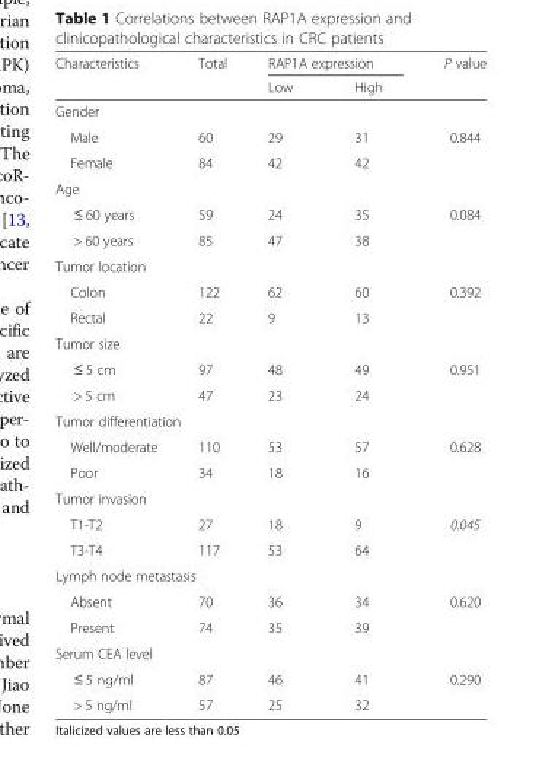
<table><thead><tr><td rowspan="2">Characteristics</td><td rowspan="2">Total</td><td colspan="2">RAP1A expression</td><td rowspan="2">P value</td></tr><tr><td>Low</td><td>High</td></tr></thead><tbody><tr><td colspan="5">Gender</td></tr><tr><td>Male</td><td>60</td><td>29</td><td>31</td><td rowspan="2">0.844</td></tr><tr><td>Female</td><td>84</td><td>42</td><td>42</td></tr><tr><td colspan="5">Age</td></tr><tr><td>≤ 60 years</td><td>59</td><td>24</td><td>35</td><td rowspan="2">0.084</td></tr><tr><td>&gt; 60 years</td><td>85</td><td>47</td><td>38</td></tr><tr><td colspan="5">Tumor location</td></tr><tr><td>Colon</td><td>122</td><td>62</td><td>60</td><td rowspan="2">0.392</td></tr><tr><td>Rectal</td><td>22</td><td>9</td><td>13</td></tr><tr><td colspan="5">Tumor size</td></tr><tr><td>≤ 5 cm</td><td>97</td><td>48</td><td>49</td><td rowspan="2">0.951</td></tr><tr><td>&gt; 5 cm</td><td>47</td><td>23</td><td>24</td></tr><tr><td colspan="5">Tumor differentiation</td></tr><tr><td>Well/moderate</td><td>110</td><td>53</td><td>57</td><td rowspan="2">0.628</td></tr><tr><td>Poor</td><td>34</td><td>18</td><td>16</td></tr><tr><td colspan="5">Tumor invasion</td></tr><tr><td>T1-T2</td><td>27</td><td>18</td><td>9</td><td rowspan="2">0.045</td></tr><tr><td>T3-T4</td><td>117</td><td>53</td><td>64</td></tr><tr><td colspan="5">Lymph node metastasis</td></tr><tr><td>Absent</td><td>70</td><td>36</td><td>34</td><td rowspan="2">0.620</td></tr><tr><td>Present</td><td>74</td><td>35</td><td>39</td></tr><tr><td colspan="5">Serum CEA level</td></tr><tr><td>≤ 5 ng/ml</td><td>87</td><td>46</td><td>41</td><td rowspan="2">0.290</td></tr><tr><td>&gt; 5 ng/ml</td><td>57</td><td>25</td><td>32</td></tr></tbody></table>